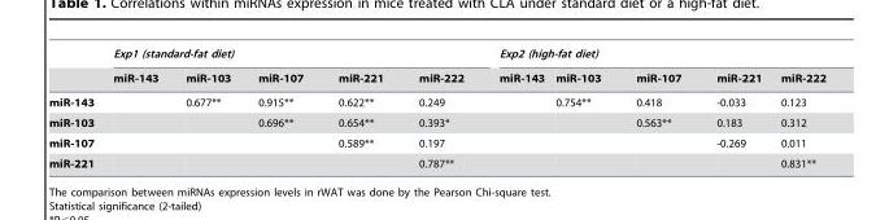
<table><thead><tr><td rowspan="2"></td><td colspan="5">Exp1 (standard-fat diet)</td><td colspan="5">Exp2 (high-fat diet)</td></tr><tr><td>miR-143</td><td>miR-103</td><td>miR-107</td><td>miR-221</td><td>miR-222</td><td>miR-143</td><td>miR-103</td><td>miR-107</td><td>miR-221</td><td>miR-222</td></tr></thead><tbody><tr><td>miR-143</td><td></td><td>0.677**</td><td>0.915**</td><td>0.622**</td><td>0.249</td><td></td><td>0.754**</td><td>0.418</td><td>-0.033</td><td>0.123</td></tr><tr><td>miR-103</td><td></td><td></td><td>0.696**</td><td>0.654**</td><td>0.393*</td><td></td><td></td><td>0.563**</td><td>0.183</td><td>0.312</td></tr><tr><td>miR-107</td><td></td><td></td><td></td><td>0.589**</td><td>0.197</td><td></td><td></td><td></td><td>-0.269</td><td>0.011</td></tr><tr><td>miR-221</td><td></td><td></td><td></td><td></td><td>0.787**</td><td></td><td></td><td></td><td></td><td>0.831**</td></tr></tbody></table>